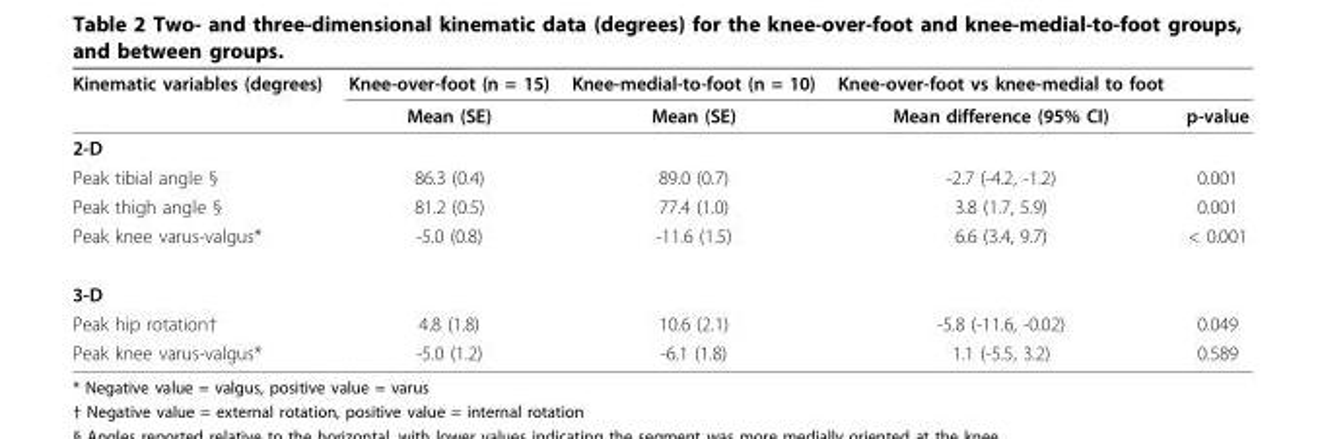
<table><thead><tr><td rowspan="2">Kinematic variables (degrees)</td><td rowspan="2">Knee-over-foot (n = 15) Mean (SE)</td><td rowspan="2">Knee-medial-to-foot (n = 10) Mean (SE)</td><td rowspan="2">Knee-over-foot vs knee-medial to foot Mean difference (95% CI)</td><td rowspan="2">p-value</td></tr><tr></tr></thead><tbody><tr><td colspan="5">2-D</td></tr><tr><td>Peak tibial angle §</td><td>86.3 (0.4)</td><td>89.0 (0.7)</td><td>-2.7 (-4.2, -1.2)</td><td>0.001</td></tr><tr><td>Peak thigh angle §</td><td>81.2 (0.5)</td><td>77.4 (1.0)</td><td>3.8 (1.7, 5.9)</td><td>0.001</td></tr><tr><td>Peak knee varus-valgus*</td><td>-5.0 (0.8)</td><td>-11.6 (1.5)</td><td>6.6 (3.4, 9.7)</td><td>&lt; 0.001</td></tr><tr><td colspan="5">3-D</td></tr><tr><td>Peak hip rotation†</td><td>4.8 (1.8)</td><td>10.6 (2.1)</td><td>-5.8 (-11.6, -0.02)</td><td>0.049</td></tr><tr><td>Peak knee varus-valgus*</td><td>-5.0 (1.2)</td><td>-6.1 (1.8)</td><td>1.1 (-5.5, 3.2)</td><td>0.589</td></tr></tbody></table>